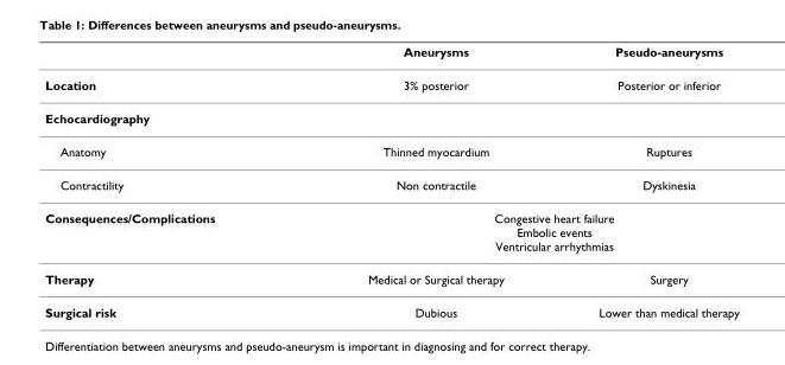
<table><thead><tr><td></td><td>Aneurysms</td><td>Pseudo-aneurysms</td></tr></thead><tbody><tr><td>Location</td><td>3% posterior</td><td>Posterior or inferior</td></tr><tr><td colspan="3">Echocardiography</td></tr><tr><td>Anatomy</td><td>Thinned myocardium</td><td>Ruptures</td></tr><tr><td>Contractility</td><td>Non contractile</td><td>Dyskinesia</td></tr><tr><td>Consequences/Complications</td><td colspan="2">Congestive heart failure Embolic events Ventricular arrhythmias</td></tr><tr><td>Therapy</td><td>Medical or Surgical therapy</td><td>Surgery</td></tr><tr><td>Surgical risk</td><td>Dubious</td><td>Lower than medical therapy</td></tr></tbody></table>